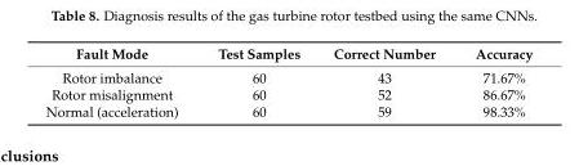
<table><thead><tr><td>Fault Mode</td><td>Test Samples</td><td>Correct Number</td><td>Accuracy</td></tr></thead><tbody><tr><td>Rotor imbalance</td><td>60</td><td>43</td><td>71.67%</td></tr><tr><td>Rotor misalignment</td><td>60</td><td>52</td><td>86.67%</td></tr><tr><td>Normal (acceleration)</td><td>60</td><td>59</td><td>98.33%</td></tr></tbody></table>